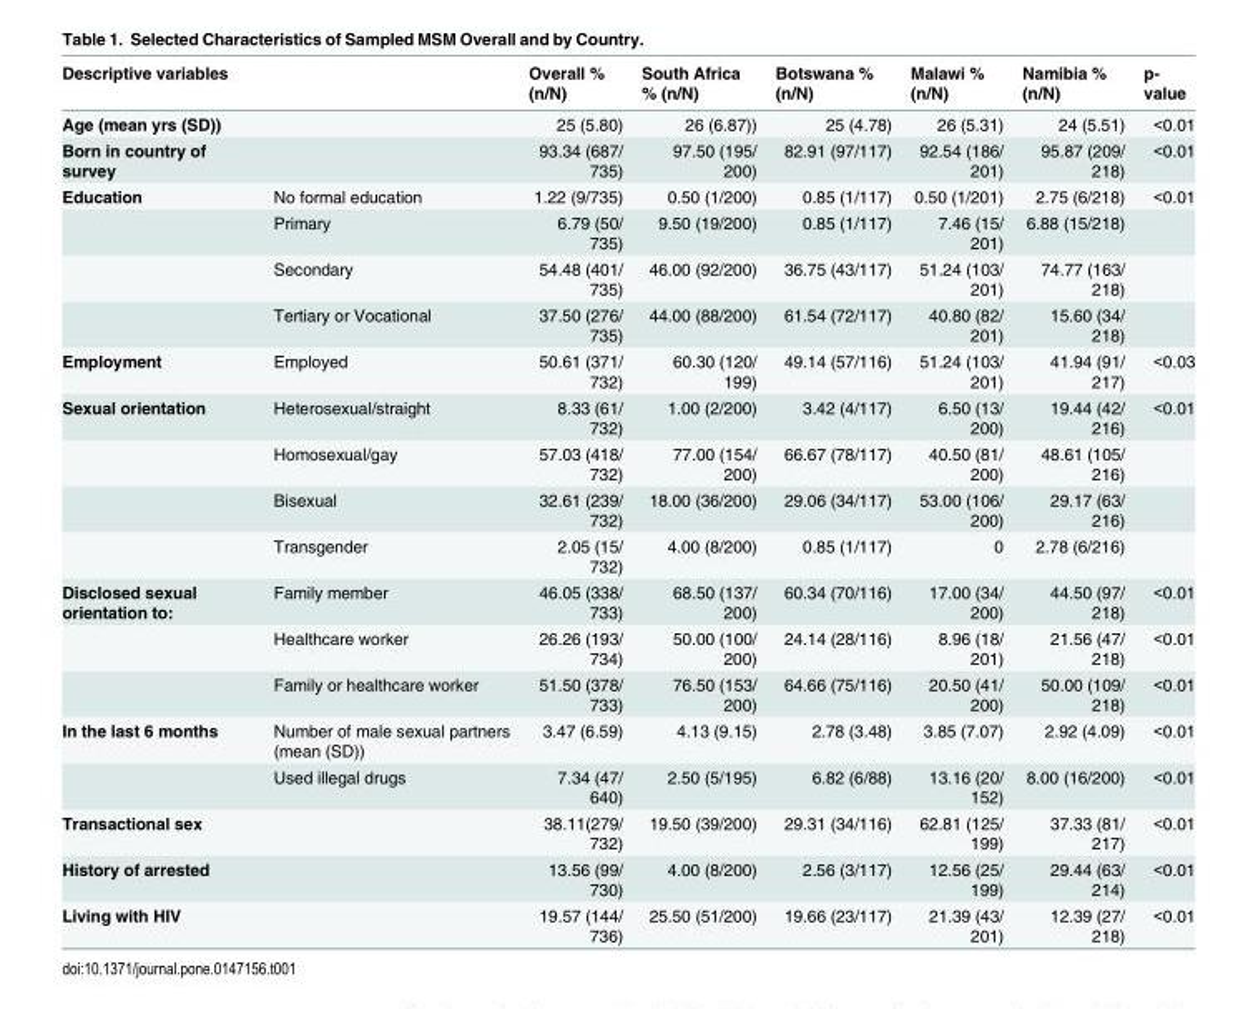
<table><thead><tr><td>Descriptive variables</td><td></td><td>Overall % (n/N)</td><td>South Africa % (n/N)</td><td>Botswana % (n/N)</td><td>Malawi % (n/N)</td><td>Namibia % (n/N)</td><td>p- value</td></tr></thead><tbody><tr><td>Age (mean yrs (SD))</td><td></td><td>25 (5.80)</td><td>26 (6.87))</td><td>25 (4.78)</td><td>26 (5.31)</td><td>24 (5.51)</td><td>&lt;0.01</td></tr><tr><td>Born in country of survey</td><td></td><td>93.34 (687/ 735)</td><td>97.50 (195/ 200)</td><td>82.91 (97/117)</td><td>92.54 (186/ 201)</td><td>95.87 (209/ 218)</td><td>&lt;0.01</td></tr><tr><td rowspan="4">Education</td><td>No formal education</td><td>1.22 (9/735)</td><td>0.50 (1/200)</td><td>0.85 (1/117)</td><td>0.50 (1/201)</td><td>2.75 (6/218)</td><td>&lt;0.01</td></tr><tr><td>Primary</td><td>6.79 (50/ 735)</td><td>9.50 (19/200)</td><td>0.85 (1/117)</td><td>7.46 (15/ 201)</td><td>6.88 (15/218)</td><td></td></tr><tr><td>Secondary</td><td>54.48 (401/ 735)</td><td>46.00 (92/200)</td><td>36.75 (43/117)</td><td>51.24 (103/ 201)</td><td>74.77 (163/ 218)</td><td></td></tr><tr><td>Tertiary or Vocational</td><td>37.50 (276/ 735)</td><td>44.00 (88/200)</td><td>61.54 (72/117)</td><td>40.80 (82/ 201)</td><td>15.60 (34/ 218)</td><td></td></tr><tr><td>Employment</td><td>Employed</td><td>50.61 (371/ 732)</td><td>60.30 (120/ 199)</td><td>49.14 (57/116)</td><td>51.24 (103/ 201)</td><td>41.94 (91/ 217)</td><td>&lt;0.03</td></tr><tr><td rowspan="4">Sexual orientation</td><td>Heterosexual/straight</td><td>8.33 (61/ 732)</td><td>1.00 (2/200)</td><td>3.42 (4/117)</td><td>6.50 (13/ 200)</td><td>19.44 (42/ 216)</td><td>&lt;0.01</td></tr><tr><td>Homosexual/gay</td><td>57.03 (418/ 732)</td><td>77.00 (154/ 200)</td><td>66.67 (78/117)</td><td>40.50 (81/ 200)</td><td>48.61 (105/ 216)</td><td></td></tr><tr><td>Bisexual</td><td>32.61 (239/ 732)</td><td>18.00 (36/200)</td><td>29.06 (34/117)</td><td>53.00 (106/ 200)</td><td>29.17 (63/ 216)</td><td></td></tr><tr><td>Transgender</td><td>2.05 (15/ 732)</td><td>4.00 (8/200)</td><td>0.85 (1/117)</td><td>0</td><td>2.78 (6/216)</td><td></td></tr><tr><td rowspan="3">Disclosed sexual orientation to:</td><td>Family member</td><td>46.05 (338/ 733)</td><td>68.50 (137/ 200)</td><td>60.34 (70/116)</td><td>17.00 (34/ 200)</td><td>44.50 (97/ 218)</td><td>&lt;0.01</td></tr><tr><td>Healthcare worker</td><td>26.26 (193/ 734)</td><td>50.00 (100/ 200)</td><td>24.14 (28/116)</td><td>8.96 (18/ 201)</td><td>21.56 (47/ 218)</td><td>&lt;0.01</td></tr><tr><td>Family or healthcare worker</td><td>51.50 (378/ 733)</td><td>76.50 (153/ 200)</td><td>64.66 (75/116)</td><td>20.50 (41/ 200)</td><td>50.00 (109/ 218)</td><td>&lt;0.01</td></tr><tr><td rowspan="2">In the last 6 months</td><td>Number of male sexual partners (mean (SD))</td><td>3.47 (6.59)</td><td>4.13 (9.15)</td><td>2.78 (3.48)</td><td>3.85 (7.07)</td><td>2.92 (4.09)</td><td>&lt;0.01</td></tr><tr><td>Used illegal drugs</td><td>7.34 (47/ 640)</td><td>2.50 (5/195)</td><td>6.82 (6/88)</td><td>13.16 (20/ 152)</td><td>8.00 (16/200)</td><td>&lt;0.01</td></tr><tr><td>Transactional sex</td><td></td><td>38.11(279/ 732)</td><td>19.50 (39/200)</td><td>29.31 (34/116)</td><td>62.81 (125/ 199)</td><td>37.33 (81/ 217)</td><td>&lt;0.01</td></tr><tr><td>History of arrested</td><td></td><td>13.56 (99/ 730)</td><td>4.00 (8/200)</td><td>2.56 (3/117)</td><td>12.56 (25/ 199)</td><td>29.44 (63/ 214)</td><td>&lt;0.01</td></tr><tr><td>Living with HIV</td><td></td><td>19.57 (144/ 736)</td><td>25.50 (51/200)</td><td>19.66 (23/117)</td><td>21.39 (43/ 201)</td><td>12.39 (27/ 218)</td><td>&lt;0.01</td></tr></tbody></table>